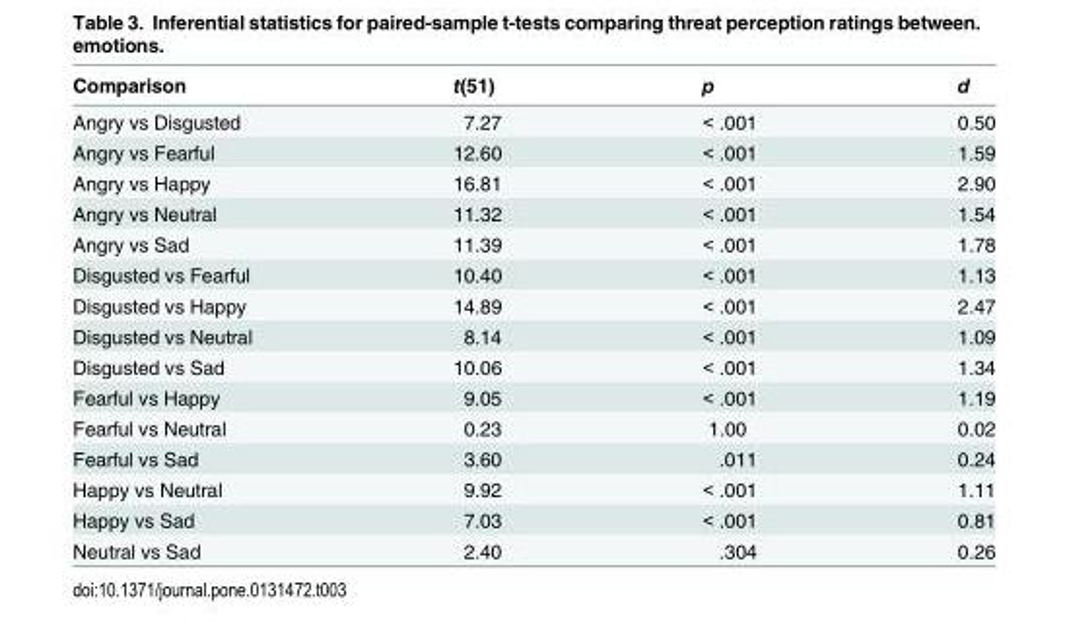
<table><thead><tr><td>Comparison</td><td>t(51)</td><td>p</td><td>d</td></tr></thead><tbody><tr><td>Angry vs Disgusted</td><td>7.27</td><td>&lt; .001</td><td>0.50</td></tr><tr><td>Angry vs Fearful</td><td>12.60</td><td>&lt; .001</td><td>1.59</td></tr><tr><td>Angry vs Happy</td><td>16.81</td><td>&lt; .001</td><td>2.90</td></tr><tr><td>Angry vs Neutral</td><td>11.32</td><td>&lt; .001</td><td>1.54</td></tr><tr><td>Angry vs Sad</td><td>11.39</td><td>&lt; .001</td><td>1.78</td></tr><tr><td>Disgusted vs Fearful</td><td>10.40</td><td>&lt; .001</td><td>1.13</td></tr><tr><td>Disgusted vs Happy</td><td>14.89</td><td>&lt; .001</td><td>2.47</td></tr><tr><td>Disgusted vs Neutral</td><td>8.14</td><td>&lt; .001</td><td>1.09</td></tr><tr><td>Disgusted vs Sad</td><td>10.06</td><td>&lt; .001</td><td>1.34</td></tr><tr><td>Fearful vs Happy</td><td>9.05</td><td>&lt; .001</td><td>1.19</td></tr><tr><td>Fearful vs Neutral</td><td>0.23</td><td>1.00</td><td>0.02</td></tr><tr><td>Fearful vs Sad</td><td>3.60</td><td>.011</td><td>0.24</td></tr><tr><td>Happy vs Neutral</td><td>9.92</td><td>&lt; .001</td><td>1.11</td></tr><tr><td>Happy vs Sad</td><td>7.03</td><td>&lt; .001</td><td>0.81</td></tr><tr><td>Neutral vs Sad</td><td>2.40</td><td>.304</td><td>0.26</td></tr></tbody></table>